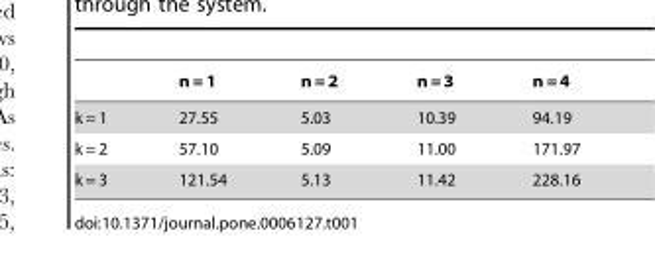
<table><thead><tr><td></td><td>n = 1</td><td>n = 2</td><td>n = 3</td><td>n = 4</td></tr></thead><tbody><tr><td>k = 1</td><td>27.55</td><td>5.03</td><td>10.39</td><td>94.19</td></tr><tr><td>k = 2</td><td>57.10</td><td>5.09</td><td>11.00</td><td>171.97</td></tr><tr><td>k = 3</td><td>121.54</td><td>5.13</td><td>11.42</td><td>228.16</td></tr></tbody></table>